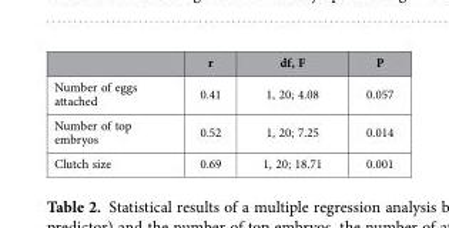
<table><thead><tr><td></td><td>r</td><td>df, F</td><td>P</td></tr></thead><tbody><tr><td>Number of eggs attached</td><td>0.41</td><td>1, 20; 4.08</td><td>0.057</td></tr><tr><td>Number of top embryos</td><td>0.52</td><td>1, 20; 7.25</td><td>0.014</td></tr><tr><td>Clutch size</td><td>0.69</td><td>1, 20; 18.71</td><td>0.001</td></tr></tbody></table>